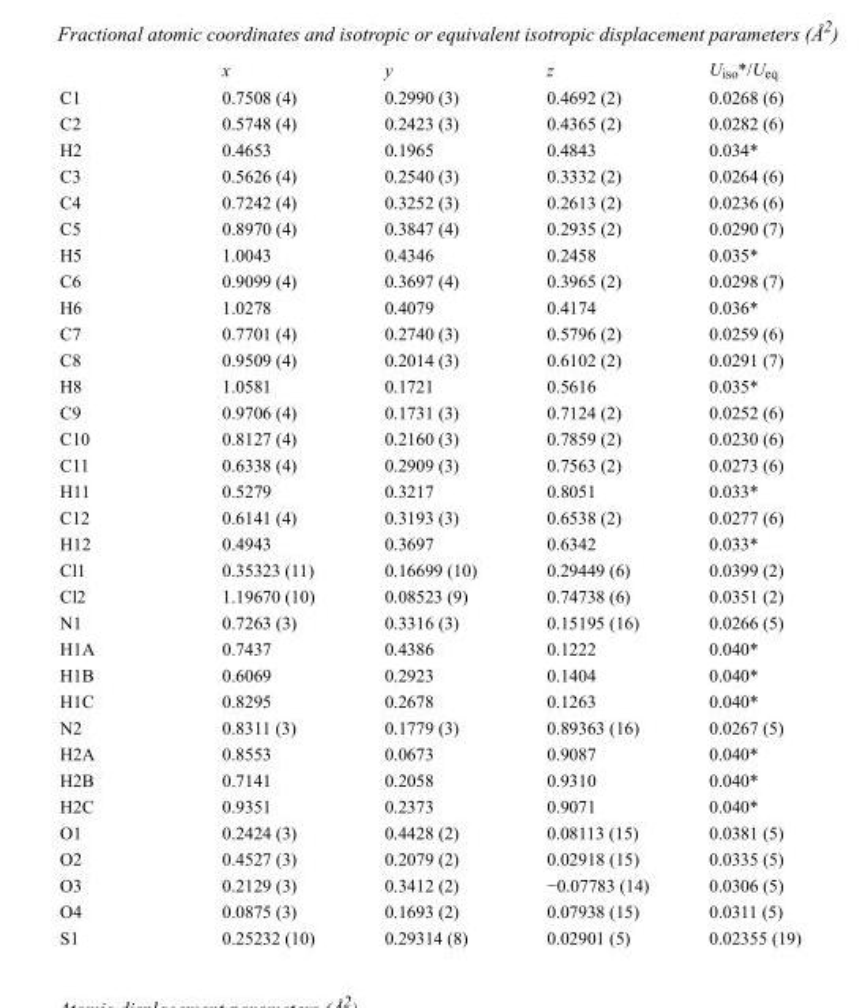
<table><thead><tr><td></td><td>x</td><td>y</td><td>z</td><td>U<sub>iso</sub>*/U<sub>eq</sub></td></tr></thead><tbody><tr><td>C1</td><td>0.7508 (4)</td><td>0.2990 (3)</td><td>0.4692 (2)</td><td>0.0268 (6)</td></tr><tr><td>C2</td><td>0.5748 (4)</td><td>0.2423 (3)</td><td>0.4365 (2)</td><td>0.0282 (6)</td></tr><tr><td>H2</td><td>0.4653</td><td>0.1965</td><td>0.4843</td><td>0.034*</td></tr><tr><td>C3</td><td>0.5626 (4)</td><td>0.2540 (3)</td><td>0.3332 (2)</td><td>0.0264 (6)</td></tr><tr><td>C4</td><td>0.7242 (4)</td><td>0.3252 (3)</td><td>0.2613 (2)</td><td>0.0236 (6)</td></tr><tr><td>C5</td><td>0.8970 (4)</td><td>0.3847 (4)</td><td>0.2935 (2)</td><td>0.0290 (7)</td></tr><tr><td>H5</td><td>1.0043</td><td>0.4346</td><td>0.2458</td><td>0.035*</td></tr><tr><td>C6</td><td>0.9099 (4)</td><td>0.3697 (4)</td><td>0.3965 (2)</td><td>0.0298 (7)</td></tr><tr><td>H6</td><td>1.0278</td><td>0.4079</td><td>0.4174</td><td>0.036*</td></tr><tr><td>C7</td><td>0.7701 (4)</td><td>0.2740 (3)</td><td>0.5796 (2)</td><td>0.0259 (6)</td></tr><tr><td>C8</td><td>0.9509 (4)</td><td>0.2014 (3)</td><td>0.6102 (2)</td><td>0.0291 (7)</td></tr><tr><td>H8</td><td>1.0581</td><td>0.1721</td><td>0.5616</td><td>0.035*</td></tr><tr><td>C9</td><td>0.9706 (4)</td><td>0.1731 (3)</td><td>0.7124 (2)</td><td>0.0252 (6)</td></tr><tr><td>C10</td><td>0.8127 (4)</td><td>0.2160 (3)</td><td>0.7859 (2)</td><td>0.0230 (6)</td></tr><tr><td>C11</td><td>0.6338 (4)</td><td>0.2909 (3)</td><td>0.7563 (2)</td><td>0.0273 (6)</td></tr><tr><td>H11</td><td>0.5279</td><td>0.3217</td><td>0.8051</td><td>0.033*</td></tr><tr><td>C12</td><td>0.6141 (4)</td><td>0.3193 (3)</td><td>0.6538 (2)</td><td>0.0277 (6)</td></tr><tr><td>H12</td><td>0.4943</td><td>0.3697</td><td>0.6342</td><td>0.033*</td></tr><tr><td>Cl1</td><td>0.35323 (11)</td><td>0.16699 (10)</td><td>0.29449 (6)</td><td>0.0399 (2)</td></tr><tr><td>Cl2</td><td>1.19670 (10)</td><td>0.08523 (9)</td><td>0.74738 (6)</td><td>0.0351 (2)</td></tr><tr><td>N1</td><td>0.7263 (3)</td><td>0.3316 (3)</td><td>0.15195 (16)</td><td>0.0266 (5)</td></tr><tr><td>H1A</td><td>0.7437</td><td>0.4386</td><td>0.1222</td><td>0.040*</td></tr><tr><td>H1B</td><td>0.6069</td><td>0.2923</td><td>0.1404</td><td>0.040*</td></tr><tr><td>H1C</td><td>0.8295</td><td>0.2678</td><td>0.1263</td><td>0.040*</td></tr><tr><td>N2</td><td>0.8311 (3)</td><td>0.1779 (3)</td><td>0.89363 (16)</td><td>0.0267 (5)</td></tr><tr><td>H2A</td><td>0.8553</td><td>0.0673</td><td>0.9087</td><td>0.040*</td></tr><tr><td>H2B</td><td>0.7141</td><td>0.2058</td><td>0.9310</td><td>0.040*</td></tr><tr><td>H2C</td><td>0.9351</td><td>0.2373</td><td>0.9071</td><td>0.040*</td></tr><tr><td>O1</td><td>0.2424 (3)</td><td>0.4428 (2)</td><td>0.08113 (15)</td><td>0.0381 (5)</td></tr><tr><td>O2</td><td>0.4527 (3)</td><td>0.2079 (2)</td><td>0.02918 (15)</td><td>0.0335 (5)</td></tr><tr><td>O3</td><td>0.2129 (3)</td><td>0.3412 (2)</td><td>−0.07783 (14)</td><td>0.0306 (5)</td></tr><tr><td>O4</td><td>0.0875 (3)</td><td>0.1693 (2)</td><td>0.07938 (15)</td><td>0.0311 (5)</td></tr><tr><td>S1</td><td>0.25232 (10)</td><td>0.29314 (8)</td><td>0.02901 (5)</td><td>0.02355 (19)</td></tr></tbody></table>